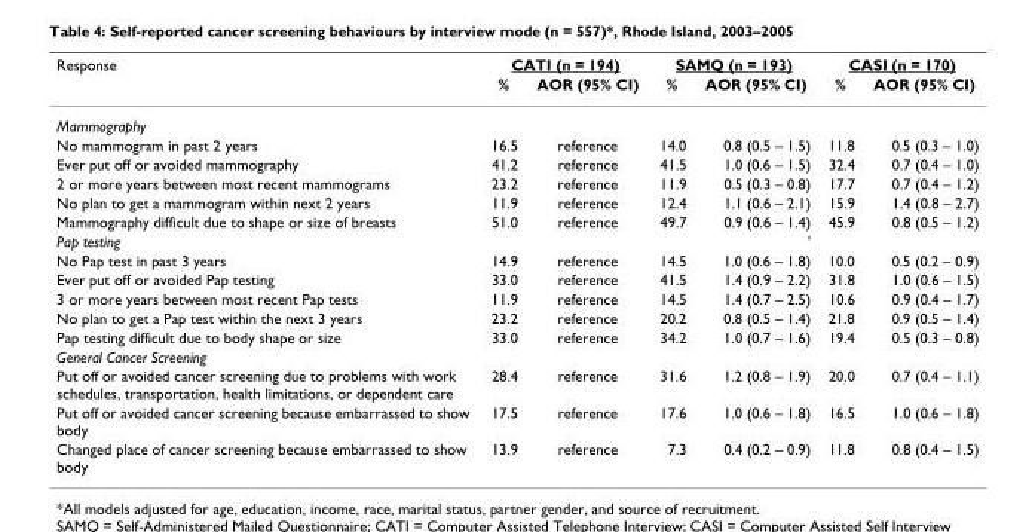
<table><thead><tr><td rowspan="2">Response</td><td colspan="2">CATI (n = 194)</td><td colspan="2">SAMQ (n = 193)</td><td colspan="2">CASI (n = 170)</td></tr><tr><td>%</td><td>AOR (95% CI)</td><td>%</td><td>AOR (95% CI)</td><td>%</td><td>AOR (95% CI)</td></tr></thead><tbody><tr><td colspan="7">Mammography</td></tr><tr><td>No mammogram in past 2 years</td><td>16.5</td><td>reference</td><td>14.0</td><td>0.8 (0.5 – 1.5)</td><td>11.8</td><td>0.5 (0.3 – 1.0)</td></tr><tr><td>Ever put off or avoided mammography</td><td>41.2</td><td>reference</td><td>41.5</td><td>1.0 (0.6 – 1.5)</td><td>32.4</td><td>0.7 (0.4 – 1.0)</td></tr><tr><td>2 or more years between most recent mammograms</td><td>23.2</td><td>reference</td><td>11.9</td><td>0.5 (0.3 – 0.8)</td><td>17.7</td><td>0.7 (0.4 – 1.2)</td></tr><tr><td>No plan to get a mammogram within next 2 years</td><td>11.9</td><td>reference</td><td>12.4</td><td>1.1 (0.6 – 2.1)</td><td>15.9</td><td>1.4 (0.8 – 2.7)</td></tr><tr><td>Mammography difficult due to shape or size of breasts</td><td>51.0</td><td>reference</td><td>49.7</td><td>0.9 (0.6 – 1.4)</td><td>45.9</td><td>0.8 (0.5 – 1.2)</td></tr><tr><td>Pap testing</td><td></td><td></td><td></td><td>&#x27;</td><td></td><td></td></tr><tr><td>No Pap test in past 3 years</td><td>14.9</td><td>reference</td><td>14.5</td><td>1.0 (0.6 – 1.8)</td><td>10.0</td><td>0.5 (0.2 – 0.9)</td></tr><tr><td>Ever put off or avoided Pap testing</td><td>33.0</td><td>reference</td><td>41.5</td><td>1.4 (0.9 – 2.2)</td><td>31.8</td><td>1.0 (0.6 – 1.5)</td></tr><tr><td>3 or more years between most recent Pap tests</td><td>11.9</td><td>reference</td><td>14.5</td><td>1.4 (0.7 – 2.5)</td><td>10.6</td><td>0.9 (0.4 – 1.7)</td></tr><tr><td>No plan to get a Pap test within the next 3 years</td><td>23.2</td><td>reference</td><td>20.2</td><td>0.8 (0.5 – 1.4)</td><td>21.8</td><td>0.9 (0.5 – 1.4)</td></tr><tr><td>Pap testing difficult due to body shape or size</td><td>33.0</td><td>reference</td><td>34.2</td><td>1.0 (0.7 – 1.6)</td><td>19.4</td><td>0.5 (0.3 – 0.8)</td></tr><tr><td colspan="7">General Cancer Screening</td></tr><tr><td>Put off or avoided cancer screening due to problems with work schedules, transportation, health limitations, or dependent care</td><td>28.4</td><td>reference</td><td>31.6</td><td>1.2 (0.8 – 1.9)</td><td>20.0</td><td>0.7 (0.4 – 1.1)</td></tr><tr><td>Put off or avoided cancer screening because embarrassed to show body</td><td>17.5</td><td>reference</td><td>17.6</td><td>1.0 (0.6 – 1.8)</td><td>16.5</td><td>1.0 (0.6 – 1.8)</td></tr><tr><td>Changed place of cancer screening because embarrassed to show body</td><td>13.9</td><td>reference</td><td>7.3</td><td>0.4 (0.2 – 0.9)</td><td>11.8</td><td>0.8 (0.4 – 1.5)</td></tr></tbody></table>